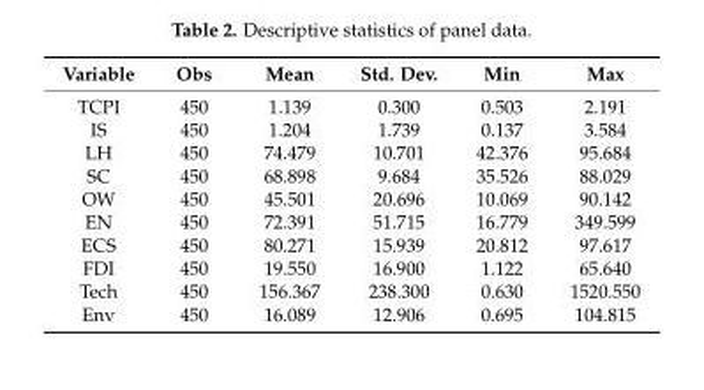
<table><thead><tr><td>Variable</td><td>Obs</td><td>Mean</td><td>Std. Dev.</td><td>Min</td><td>Max</td></tr></thead><tbody><tr><td>TCPI</td><td>450</td><td>1.139</td><td>0.300</td><td>0.503</td><td>2.191</td></tr><tr><td>IS</td><td>450</td><td>1.204</td><td>1.739</td><td>0.137</td><td>3.584</td></tr><tr><td>LH</td><td>450</td><td>74.479</td><td>10.701</td><td>42.376</td><td>95.684</td></tr><tr><td>SC</td><td>450</td><td>68.898</td><td>9.684</td><td>35.526</td><td>88.029</td></tr><tr><td>OW</td><td>450</td><td>45.501</td><td>20.696</td><td>10.069</td><td>90.142</td></tr><tr><td>EN</td><td>450</td><td>72.391</td><td>51.715</td><td>16.779</td><td>349.599</td></tr><tr><td>ECS</td><td>450</td><td>80.271</td><td>15.939</td><td>20.812</td><td>97.617</td></tr><tr><td>FDI</td><td>450</td><td>19.550</td><td>16.900</td><td>1.122</td><td>65.640</td></tr><tr><td>Tech</td><td>450</td><td>156.367</td><td>238.300</td><td>0.630</td><td>1520.550</td></tr><tr><td>Env</td><td>450</td><td>16.089</td><td>12.906</td><td>0.695</td><td>104.815</td></tr></tbody></table>